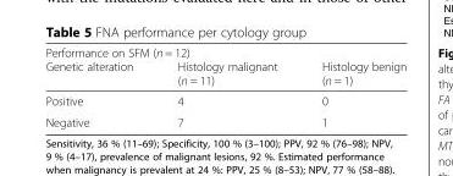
<table><thead><tr><td colspan="3">Performance on SFM (n = 12)</td></tr><tr><td>Genetic alteration</td><td>Histology malignant (n = 11)</td><td>Histology benign (n = 1)</td></tr></thead><tbody><tr><td>Positive</td><td>4</td><td>0</td></tr><tr><td>Negative</td><td>7</td><td>1</td></tr></tbody></table>